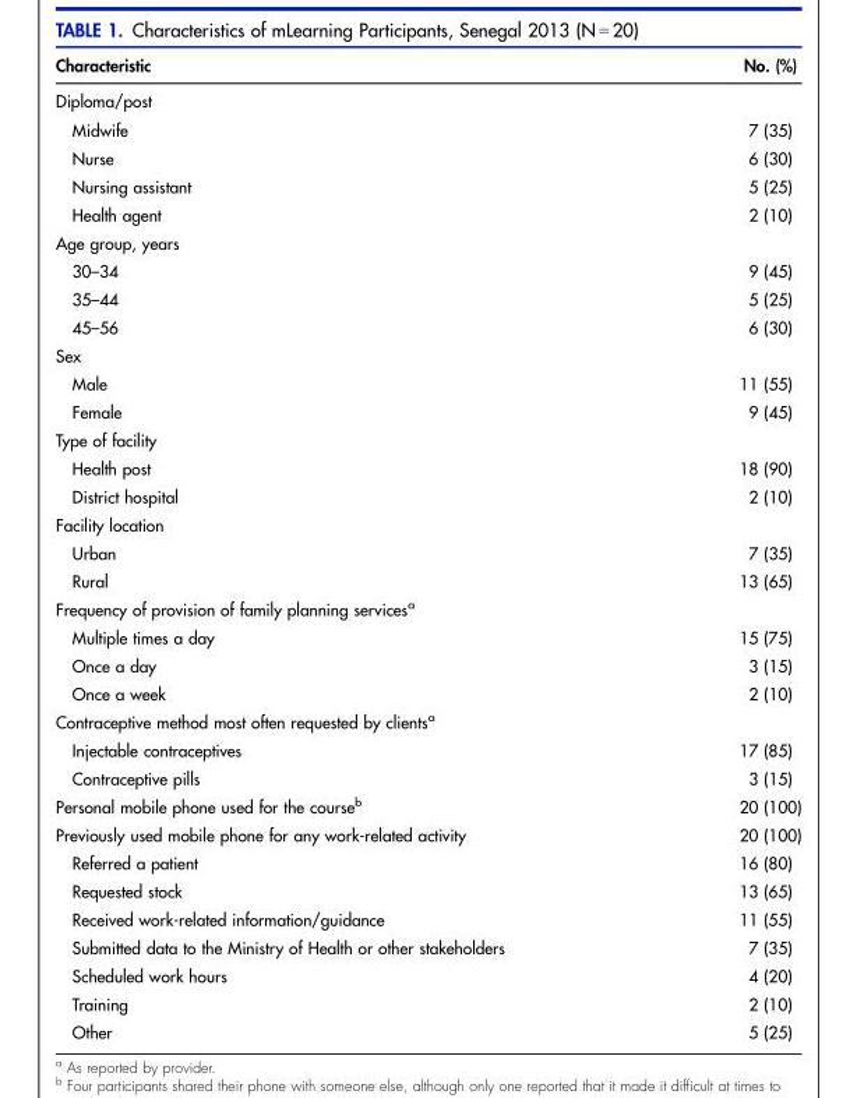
<table><thead><tr><td>Characteristic</td><td>No. (%)</td></tr></thead><tbody><tr><td colspan="2">Diploma/post</td></tr><tr><td>Midwife</td><td>7 (35)</td></tr><tr><td>Nurse</td><td>6 (30)</td></tr><tr><td>Nursing assistant</td><td>5 (25)</td></tr><tr><td>Health agent</td><td>2 (10)</td></tr><tr><td colspan="2">Age group, years</td></tr><tr><td>30–34</td><td>9 (45)</td></tr><tr><td>35–44</td><td>5 (25)</td></tr><tr><td>45–56</td><td>6 (30)</td></tr><tr><td colspan="2">Sex</td></tr><tr><td>Male</td><td>11 (55)</td></tr><tr><td>Female</td><td>9 (45)</td></tr><tr><td colspan="2">Type of facility</td></tr><tr><td>Health post</td><td>18 (90)</td></tr><tr><td>District hospital</td><td>2 (10)</td></tr><tr><td colspan="2">Facility location</td></tr><tr><td>Urban</td><td>7 (35)</td></tr><tr><td>Rural</td><td>13 (65)</td></tr><tr><td colspan="2">Frequency of provision of family planning services<sup>a</sup></td></tr><tr><td>Multiple times a day</td><td>15 (75)</td></tr><tr><td>Once a day</td><td>3 (15)</td></tr><tr><td>Once a week</td><td>2 (10)</td></tr><tr><td colspan="2">Contraceptive method most often requested by clients<sup>a</sup></td></tr><tr><td>Injectable contraceptives</td><td>17 (85)</td></tr><tr><td>Contraceptive pills</td><td>3 (15)</td></tr><tr><td>Personal mobile phone used for the course<sup>b</sup></td><td>20 (100)</td></tr><tr><td>Previously used mobile phone for any work-related activity</td><td>20 (100)</td></tr><tr><td>Referred a patient</td><td>16 (80)</td></tr><tr><td>Requested stock</td><td>13 (65)</td></tr><tr><td>Received work-related information/guidance</td><td>11 (55)</td></tr><tr><td>Submitted data to the Ministry of Health or other stakeholders</td><td>7 (35)</td></tr><tr><td>Scheduled work hours</td><td>4 (20)</td></tr><tr><td>Training</td><td>2 (10)</td></tr><tr><td>Other</td><td>5 (25)</td></tr></tbody></table>